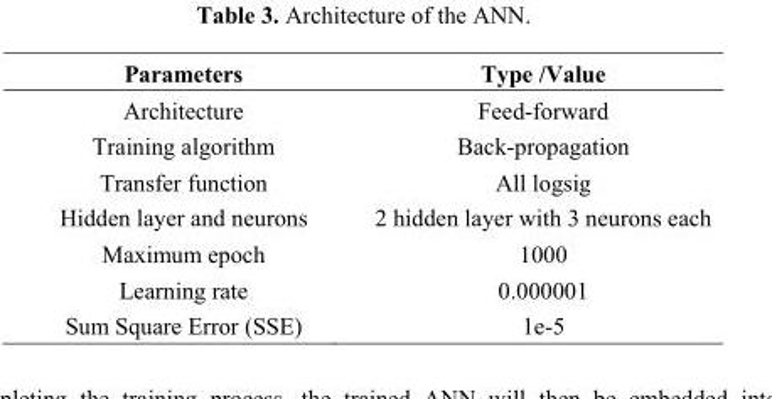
<table><thead><tr><td>Parameters</td><td>Type /Value</td></tr></thead><tbody><tr><td>Architecture</td><td>Feed-forward</td></tr><tr><td>Training algorithm</td><td>Back-propagation</td></tr><tr><td>Transfer function</td><td>All logsig</td></tr><tr><td>Hidden layer and neurons</td><td>2 hidden layer with 3 neurons each</td></tr><tr><td>Maximum epoch</td><td>1000</td></tr><tr><td>Learning rate</td><td>0.000001</td></tr><tr><td>Sum Square Error (SSE)</td><td>1e-5</td></tr></tbody></table>